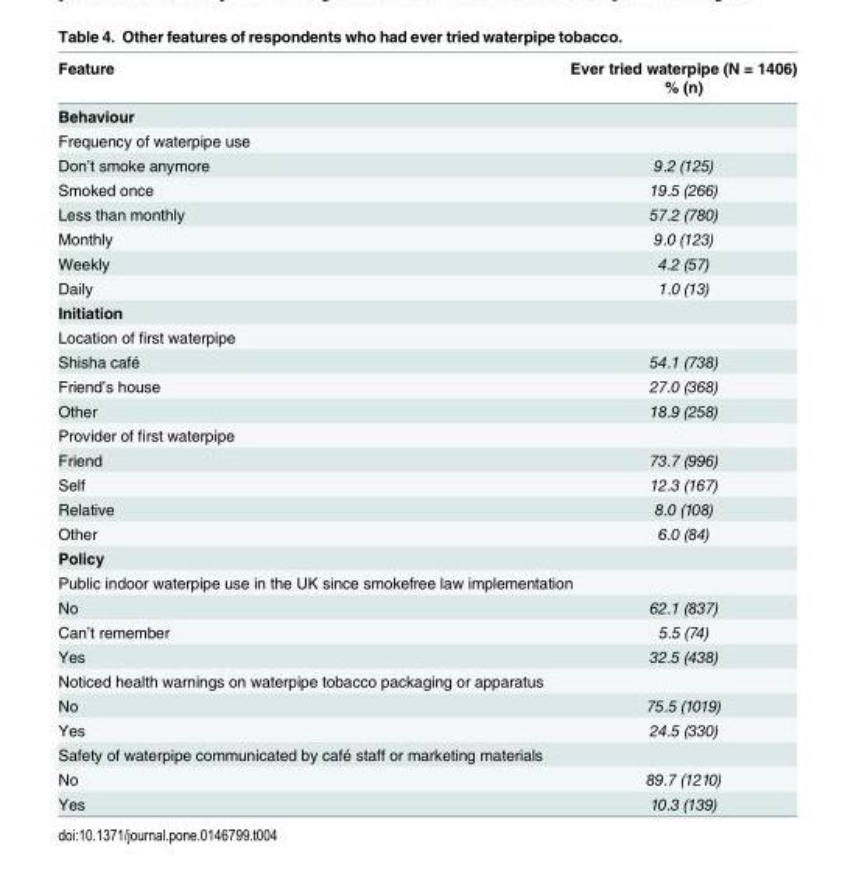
<table><thead><tr><td rowspan="2">Feature</td><td rowspan="2">Ever tried waterpipe (N = 1406) % (n)</td></tr><tr></tr></thead><tbody><tr><td colspan="2">Behaviour</td></tr><tr><td colspan="2">Frequency of waterpipe use</td></tr><tr><td>Don’t smoke anymore</td><td>9.2 (125)</td></tr><tr><td>Smoked once</td><td>19.5 (266)</td></tr><tr><td>Less than monthly</td><td>57.2 (780)</td></tr><tr><td>Monthly</td><td>9.0 (123)</td></tr><tr><td>Weekly</td><td>4.2 (57)</td></tr><tr><td>Daily</td><td>1.0 (13)</td></tr><tr><td colspan="2">Initiation</td></tr><tr><td colspan="2">Location of first waterpipe</td></tr><tr><td>Shisha café</td><td>54.1 (738)</td></tr><tr><td>Friend’s house</td><td>27.0 (368)</td></tr><tr><td>Other</td><td>18.9 (258)</td></tr><tr><td colspan="2">Provider of first waterpipe</td></tr><tr><td>Friend</td><td>73.7 (996)</td></tr><tr><td>Self</td><td>12.3 (167)</td></tr><tr><td>Relative</td><td>8.0 (108)</td></tr><tr><td>Other</td><td>6.0 (84)</td></tr><tr><td colspan="2">Policy</td></tr><tr><td colspan="2">Public indoor waterpipe use in the UK since smokefree law implementation</td></tr><tr><td>No</td><td>62.1 (837)</td></tr><tr><td>Can’t remember</td><td>5.5 (74)</td></tr><tr><td>Yes</td><td>32.5 (438)</td></tr><tr><td colspan="2">Noticed health warnings on waterpipe tobacco packaging or apparatus</td></tr><tr><td>No</td><td>75.5 (1019)</td></tr><tr><td>Yes</td><td>24.5 (330)</td></tr><tr><td colspan="2">Safety of waterpipe communicated by café staff or marketing materials</td></tr><tr><td>No</td><td>89.7 (1210)</td></tr><tr><td>Yes</td><td>10.3 (139)</td></tr></tbody></table>